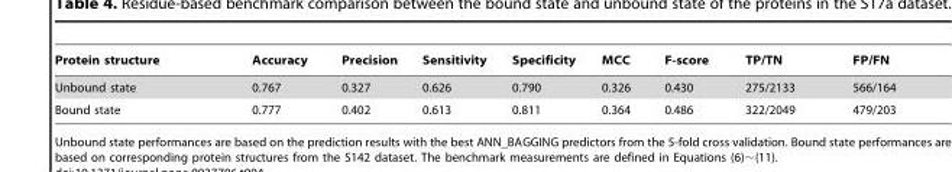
<table><thead><tr><td>Protein structure</td><td>Accuracy</td><td>Precision</td><td>Sensitivity</td><td>Specificity</td><td>MCC</td><td>F-score</td><td>TP/TN</td><td>FP/FN</td></tr></thead><tbody><tr><td>Unbound state</td><td>0.767</td><td>0.327</td><td>0.626</td><td>0.790</td><td>0.326</td><td>0.430</td><td>275/2133</td><td>566/164</td></tr><tr><td>Bound state</td><td>0.777</td><td>0.402</td><td>0.613</td><td>0.811</td><td>0.364</td><td>0.486</td><td>322/2049</td><td>479/203</td></tr></tbody></table>